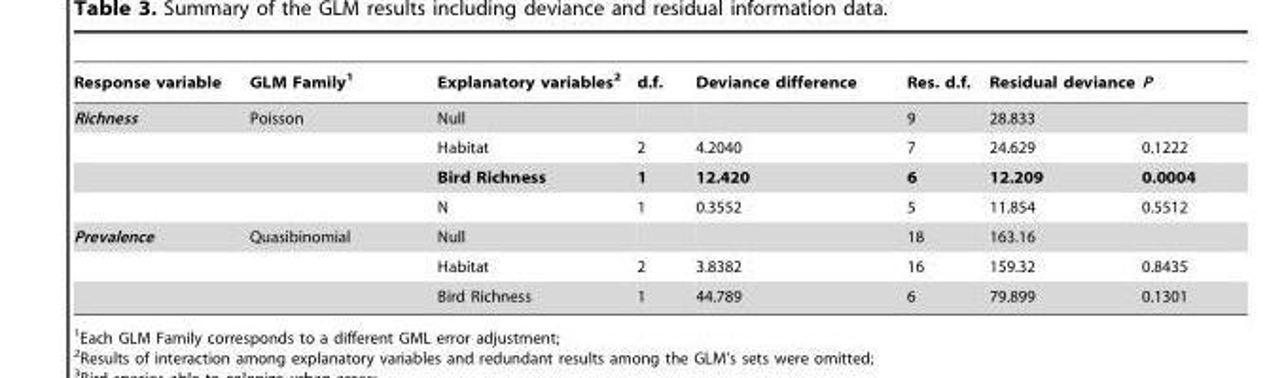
<table><thead><tr><td>Response variable</td><td>GLM Family<sup>1</sup></td><td>Explanatory variables<sup>2</sup></td><td>d.f.</td><td>Deviance difference</td><td>Res. d.f.</td><td>Residual deviance</td><td>P</td></tr></thead><tbody><tr><td rowspan="4">Richness</td><td>Poisson</td><td>Null</td><td></td><td></td><td>9</td><td>28.833</td><td></td></tr><tr><td></td><td>Habitat</td><td>2</td><td>4.2040</td><td>7</td><td>24.629</td><td>0.1222</td></tr><tr><td></td><td>Bird Richness</td><td>1</td><td>12.420</td><td>6</td><td>12.209</td><td>0.0004</td></tr><tr><td></td><td>N</td><td>1</td><td>0.3552</td><td>5</td><td>11.854</td><td>0.5512</td></tr><tr><td rowspan="3">Prevalence</td><td>Quasibinomial</td><td>Null</td><td></td><td></td><td>18</td><td>163.16</td><td></td></tr><tr><td></td><td>Habitat</td><td>2</td><td>3.8382</td><td>16</td><td>159.32</td><td>0.8435</td></tr><tr><td></td><td>Bird Richness</td><td>1</td><td>44.789</td><td>6</td><td>79.899</td><td>0.1301</td></tr></tbody></table>